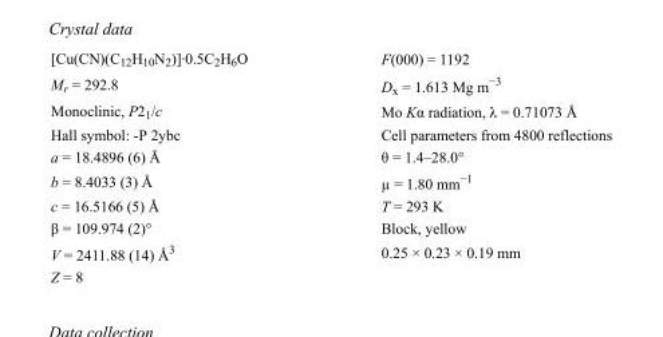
<table><tbody><tr><td>[Cu(CN)(C<sub>12</sub>H<sub>10</sub>N<sub>2</sub>)]·0.5C<sub>2</sub>H<sub>6</sub>O</td><td>F(000) = 1192</td></tr><tr><td>M<sub>r</sub> = 292.8</td><td>D<sub>x</sub> = 1.613 Mg m<sup>−3</sup></td></tr><tr><td>Monoclinic, P2<sub>1</sub>/c</td><td>Mo Kα radiation, λ = 0.71073 Å</td></tr><tr><td>Hall symbol: -P 2ybc</td><td>Cell parameters from 4800 reflections</td></tr><tr><td>a = 18.4896 (6) Å</td><td>θ = 1.4–28.0°</td></tr><tr><td>b = 8.4033 (3) Å</td><td>µ = 1.80 mm<sup>−1</sup></td></tr><tr><td>c = 16.5166 (5) Å</td><td>T = 293 K</td></tr><tr><td>β = 109.974 (2)°</td><td>Block, yellow</td></tr><tr><td>V = 2411.88 (14) Å<sup>3</sup></td><td>0.25 × 0.23 × 0.19 mm</td></tr><tr><td>Z = 8</td><td></td></tr></tbody></table>